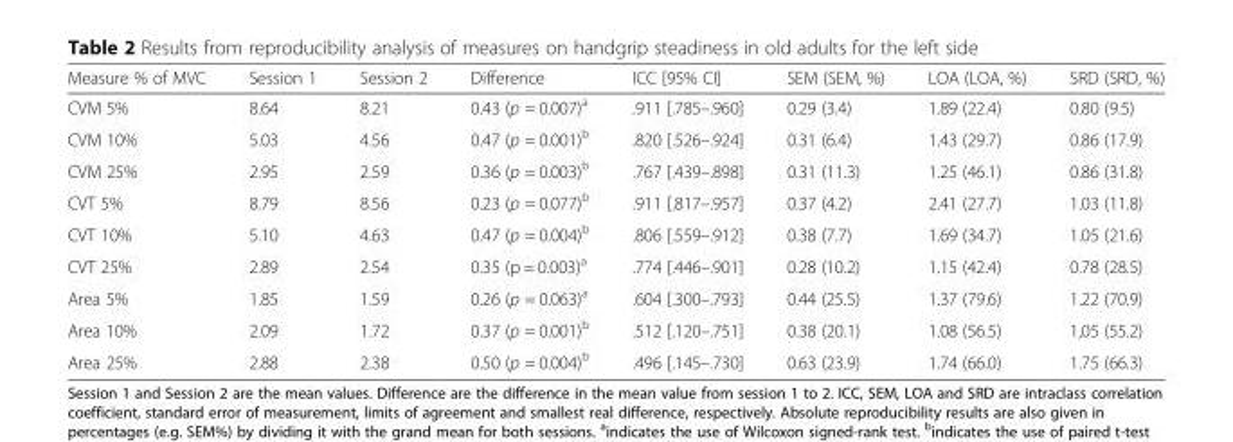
<table><thead><tr><td>Measure % of MVC</td><td>Session 1</td><td>Session 2</td><td>Difference</td><td>ICC [95% CI]</td><td>SEM (SEM, %)</td><td>LOA (LOA, %)</td><td>SRD (SRD, %)</td></tr></thead><tbody><tr><td>CVM 5%</td><td>8.64</td><td>8.21</td><td>0.43 (p = 0.007)<sup>a</sup></td><td>.911 [.785–.960]</td><td>0.29 (3.4)</td><td>1.89 (22.4)</td><td>0.80 (9.5)</td></tr><tr><td>CVM 10%</td><td>5.03</td><td>4.56</td><td>0.47 (p = 0.001)<sup>b</sup></td><td>.820 [.526–.924]</td><td>0.31 (6.4)</td><td>1.43 (29.7)</td><td>0.86 (17.9)</td></tr><tr><td>CVM 25%</td><td>2.95</td><td>2.59</td><td>0.36 (p = 0.003)<sup>b</sup></td><td>.767 [.439–.898]</td><td>0.31 (11.3)</td><td>1.25 (46.1)</td><td>0.86 (31.8)</td></tr><tr><td>CVT 5%</td><td>8.79</td><td>8.56</td><td>0.23 (p = 0.077)<sup>b</sup></td><td>.911 [.817–.957]</td><td>0.37 (4.2)</td><td>2.41 (27.7)</td><td>1.03 (11.8)</td></tr><tr><td>CVT 10%</td><td>5.10</td><td>4.63</td><td>0.47 (p = 0.004)<sup>b</sup></td><td>.806 [.559–.912]</td><td>0.38 (7.7)</td><td>1.69 (34.7)</td><td>1.05 (21.6)</td></tr><tr><td>CVT 25%</td><td>2.89</td><td>2.54</td><td>0.35 (p = 0.003)<sup>a</sup></td><td>.774 [.446–.901]</td><td>0.28 (10.2)</td><td>1.15 (42.4)</td><td>0.78 (28.5)</td></tr><tr><td>Area 5%</td><td>1.85</td><td>1.59</td><td>0.26 (p = 0.063)<sup>a</sup></td><td>.604 [.300–.793]</td><td>0.44 (25.5)</td><td>1.37 (79.6)</td><td>1.22 (70.9)</td></tr><tr><td>Area 10%</td><td>2.09</td><td>1.72</td><td>0.37 (p = 0.001)<sup>b</sup></td><td>.512 [.120–.751]</td><td>0.38 (20.1)</td><td>1.08 (56.5)</td><td>1,05 (55.2)</td></tr><tr><td>Area 25%</td><td>2.88</td><td>2.38</td><td>0.50 (p = 0.004)<sup>b</sup></td><td>.496 [.145–.730]</td><td>0.63 (23.9)</td><td>1.74 (66.0)</td><td>1.75 (66.3)</td></tr></tbody></table>